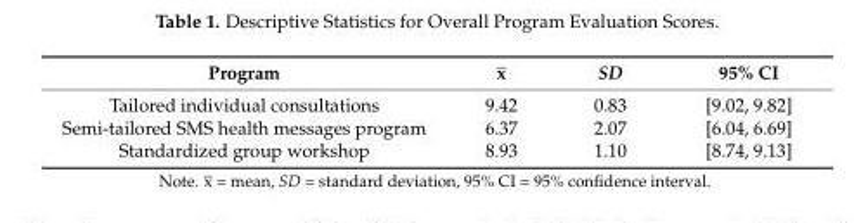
<table><thead><tr><td>Program</td><td>x</td><td>SD</td><td>95% CI</td></tr></thead><tbody><tr><td>Tailored individual consultations</td><td>9.42</td><td>0.83</td><td>[9.02, 9.82]</td></tr><tr><td>Semi-tailored SMS health messages program</td><td>6.37</td><td>2.07</td><td>[6.04, 6.69]</td></tr><tr><td>Standardized group workshop</td><td>8.93</td><td>1.10</td><td>[8.74, 9.13]</td></tr></tbody></table>